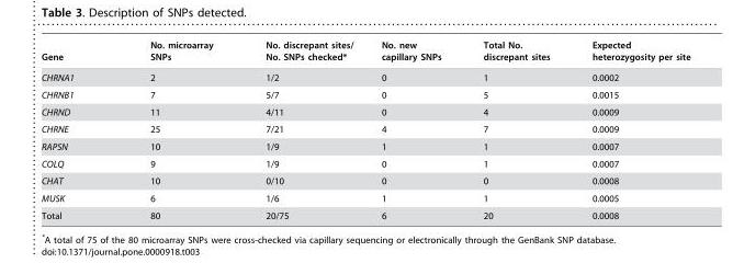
<table><thead><tr><td>Gene</td><td>No. microarray SNPs</td><td>No. discrepant sites/ No. SNPs checked*</td><td>No. new capillary SNPs</td><td>Total No. discrepant sites</td><td>Expected heterozygosity per site</td></tr></thead><tbody><tr><td>CHRNA1</td><td>2</td><td>1/2</td><td>0</td><td>1</td><td>0.0002</td></tr><tr><td>CHRNB1</td><td>7</td><td>5/7</td><td>0</td><td>5</td><td>0.0015</td></tr><tr><td>CHRND</td><td>11</td><td>4/11</td><td>0</td><td>4</td><td>0.0009</td></tr><tr><td>CHRNE</td><td>25</td><td>7/21</td><td>4</td><td>7</td><td>0.0009</td></tr><tr><td>RAPSN</td><td>10</td><td>1/9</td><td>1</td><td>1</td><td>0.0007</td></tr><tr><td>COLQ</td><td>9</td><td>1/9</td><td>0</td><td>1</td><td>0.0007</td></tr><tr><td>CHAT</td><td>10</td><td>0/10</td><td>0</td><td>0</td><td>0.0008</td></tr><tr><td>MUSK</td><td>6</td><td>1/6</td><td>1</td><td>1</td><td>0.0005</td></tr><tr><td>Total</td><td>80</td><td>20/75</td><td>6</td><td>20</td><td>0.0008</td></tr></tbody></table>